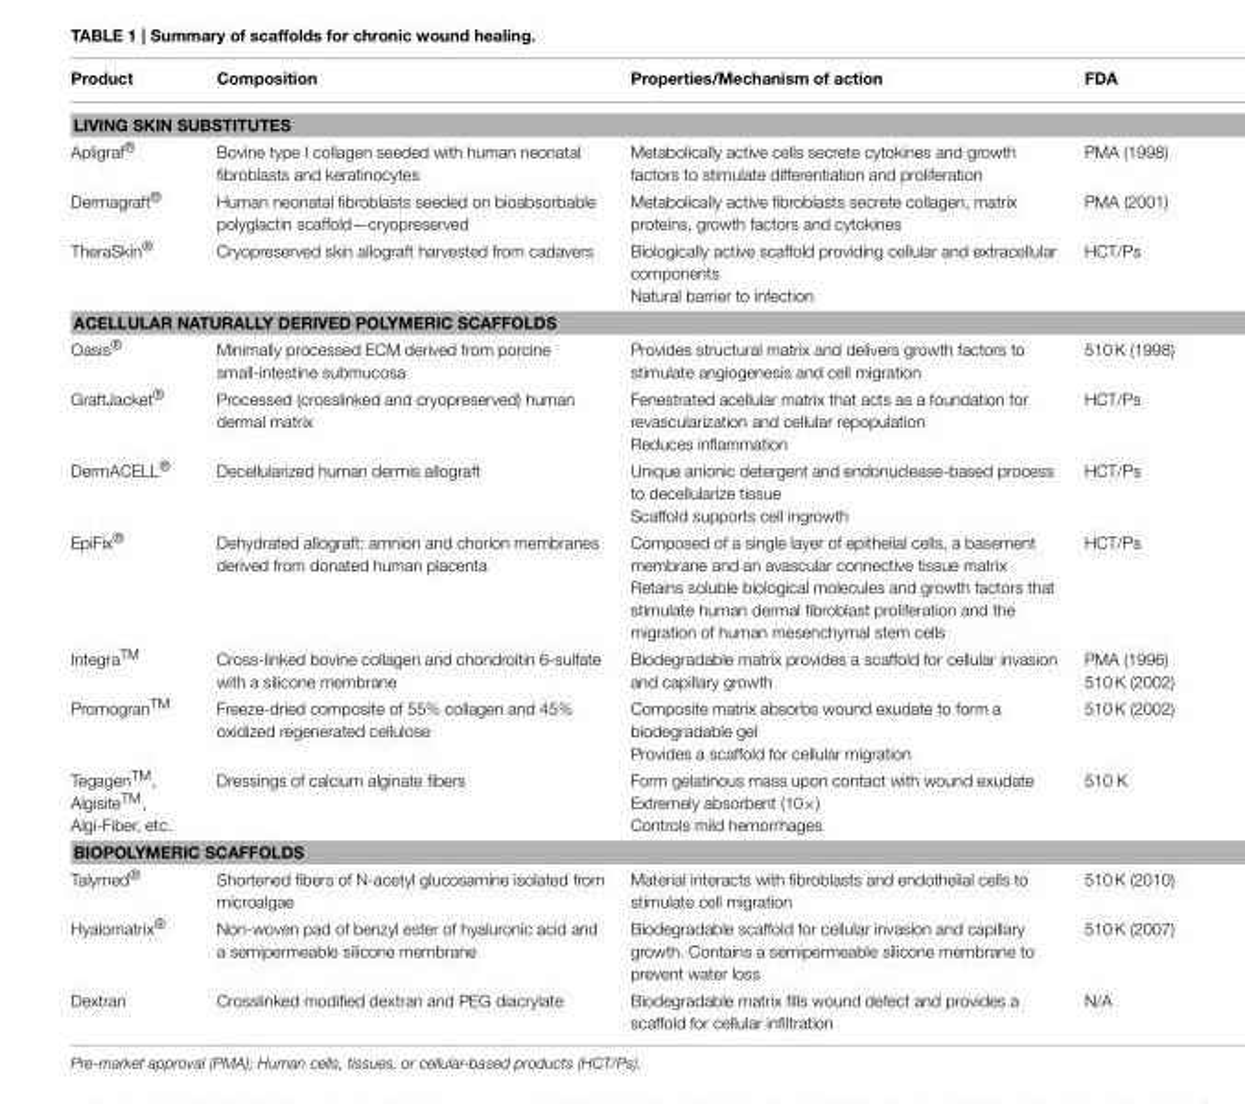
<table><thead><tr><td>Product</td><td>Composition</td><td>Properties/Mechanism of action</td><td>FDA</td></tr></thead><tbody><tr><td colspan="4">LIVING SKIN SUBSTITUTES</td></tr><tr><td>Apligraf®</td><td>Bovine type I collagen seeded with human neonatal fibroblasts and keratinocytes</td><td>Metabolically active cells secrete cytokines and growth factors to stimulate differentiation and proliferation</td><td>PMA (1998)</td></tr><tr><td>Dermagraft®</td><td>Human neonatal fibroblasts seeded on bioabsorbable polyglactin scaffold—cryopreserved</td><td>Metabolically active fibroblasts secrete collagen, matrix proteins, growth factors and cytokines</td><td>PMA (2001)</td></tr><tr><td>TheraSkin®</td><td>Cryopreserved skin allograft harvested from cadavers</td><td>Biologically active scaffold providing cellular and extracellular components Natural barrier to infection</td><td>HCT/Ps</td></tr><tr><td colspan="4">ACELLULAR NATURALLY DERIVED POLYMERIC SCAFFOLDS</td></tr><tr><td>Oasis®</td><td>Minimally processed ECM derived from porcine small-intestine submucosa</td><td>Provides structural matrix and delivers growth factors to stimulate angiogenesis and cell migration</td><td>510 K (1998)</td></tr><tr><td>GraftJacket®</td><td>Processed (crosslinked and cryopreserved) human dermal matrix</td><td>Fenestrated acellular matrix that acts as a foundation for revascularization and cellular repopulation Reduces inflammation</td><td>HCT/Ps</td></tr><tr><td>DermACELL®</td><td>Decellularized human dermis allograft</td><td>Unique anionic detergent and endonuclease-based process to decellularize tissue Scaffold supports cell ingrowth</td><td>HCT/Ps</td></tr><tr><td>EpiFix®</td><td>Dehydrated allograft: amnion and chorion membranes derived from donated human placenta</td><td>Composed of a single layer of epithelial cells, a basement membrane and an avascular connective tissue matrix Retains soluble biological molecules and growth factors that stimulate human dermal fibroblast proliferation and the migration of human mesenchymal stem cells</td><td>HCT/Ps</td></tr><tr><td>IntegraTM</td><td>Cross-linked bovine collagen and chondroitin 6-sulfate with a silicone membrane</td><td>Biodegradable matrix provides a scaffold for cellular invasion and capillary growth</td><td>PMA (1996) 510 K (2002)</td></tr><tr><td>PromogranTM</td><td>Freeze-dried composite of 55% collagen and 45% oxidized regenerated cellulose</td><td>Composite matrix absorbs wound exudate to form a biodegradable gel Provides a scaffold for cellular migration</td><td>510 K (2002)</td></tr><tr><td>TegagenTM, AlgisiteTM, Algi-Fiber, etc.</td><td>Dressings of calcium alginate fibers</td><td>Form gelatinous mass upon contact with wound exudate Extremely absorbent (10×) Controls mild hemorrhages</td><td>510 K</td></tr><tr><td colspan="4">BIOPOLYMERIC SCAFFOLDS</td></tr><tr><td>Talymed®</td><td>Shortened fibers of N-acetyl glucosamine isolated from microalgae</td><td>Material interacts with fibroblasts and endothelial cells to stimulate cell migration</td><td>510 K (2010)</td></tr><tr><td>Hyalomatrix®</td><td>Non-woven pad of benzyl ester of hyaluronic acid and a semipermeable silicone membrane</td><td>Biodegradable scaffold for cellular invasion and capillary growth. Contains a semipermeable silicone membrane to prevent water loss</td><td>510 K (2007)</td></tr><tr><td>Dextran</td><td>Crosslinked modified dextran and PEG diacrylate</td><td>Biodegradable matrix fills wound defect and provides a scaffold for cellular infiltration</td><td>N/A</td></tr></tbody></table>